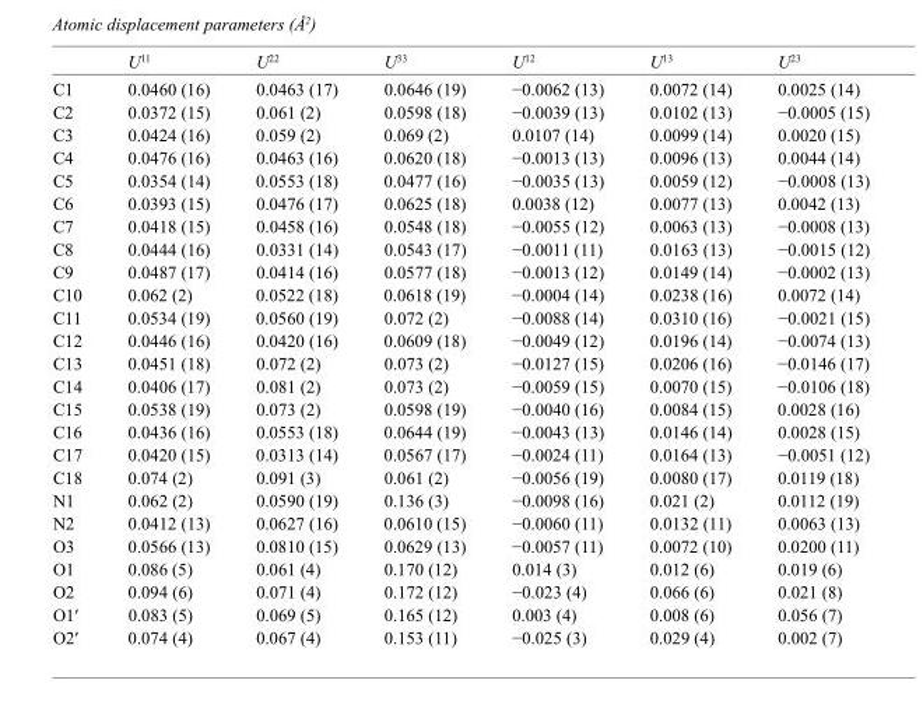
<table><thead><tr><td></td><td>U<sup>11</sup></td><td>U<sup>22</sup></td><td>U<sup>33</sup></td><td>U<sup>12</sup></td><td>U<sup>13</sup></td><td>U<sup>23</sup></td></tr></thead><tbody><tr><td>C1</td><td>0.0460 (16)</td><td>0.0463 (17)</td><td>0.0646 (19)</td><td>−0.0062 (13)</td><td>0.0072 (14)</td><td>0.0025 (14)</td></tr><tr><td>C2</td><td>0.0372 (15)</td><td>0.061 (2)</td><td>0.0598 (18)</td><td>−0.0039 (13)</td><td>0.0102 (13)</td><td>−0.0005 (15)</td></tr><tr><td>C3</td><td>0.0424 (16)</td><td>0.059 (2)</td><td>0.069 (2)</td><td>0.0107 (14)</td><td>0.0099 (14)</td><td>0.0020 (15)</td></tr><tr><td>C4</td><td>0.0476 (16)</td><td>0.0463 (16)</td><td>0.0620 (18)</td><td>−0.0013 (13)</td><td>0.0096 (13)</td><td>0.0044 (14)</td></tr><tr><td>C5</td><td>0.0354 (14)</td><td>0.0553 (18)</td><td>0.0477 (16)</td><td>−0.0035 (13)</td><td>0.0059 (12)</td><td>−0.0008 (13)</td></tr><tr><td>C6</td><td>0.0393 (15)</td><td>0.0476 (17)</td><td>0.0625 (18)</td><td>0.0038 (12)</td><td>0.0077 (13)</td><td>0.0042 (13)</td></tr><tr><td>C7</td><td>0.0418 (15)</td><td>0.0458 (16)</td><td>0.0548 (18)</td><td>−0.0055 (12)</td><td>0.0063 (13)</td><td>−0.0008 (13)</td></tr><tr><td>C8</td><td>0.0444 (16)</td><td>0.0331 (14)</td><td>0.0543 (17)</td><td>−0.0011 (11)</td><td>0.0163 (13)</td><td>−0.0015 (12)</td></tr><tr><td>C9</td><td>0.0487 (17)</td><td>0.0414 (16)</td><td>0.0577 (18)</td><td>−0.0013 (12)</td><td>0.0149 (14)</td><td>−0.0002 (13)</td></tr><tr><td>C10</td><td>0.062 (2)</td><td>0.0522 (18)</td><td>0.0618 (19)</td><td>−0.0004 (14)</td><td>0.0238 (16)</td><td>0.0072 (14)</td></tr><tr><td>C11</td><td>0.0534 (19)</td><td>0.0560 (19)</td><td>0.072 (2)</td><td>−0.0088 (14)</td><td>0.0310 (16)</td><td>−0.0021 (15)</td></tr><tr><td>C12</td><td>0.0446 (16)</td><td>0.0420 (16)</td><td>0.0609 (18)</td><td>−0.0049 (12)</td><td>0.0196 (14)</td><td>−0.0074 (13)</td></tr><tr><td>C13</td><td>0.0451 (18)</td><td>0.072 (2)</td><td>0.073 (2)</td><td>−0.0127 (15)</td><td>0.0206 (16)</td><td>−0.0146 (17)</td></tr><tr><td>C14</td><td>0.0406 (17)</td><td>0.081 (2)</td><td>0.073 (2)</td><td>−0.0059 (15)</td><td>0.0070 (15)</td><td>−0.0106 (18)</td></tr><tr><td>C15</td><td>0.0538 (19)</td><td>0.073 (2)</td><td>0.0598 (19)</td><td>−0.0040 (16)</td><td>0.0084 (15)</td><td>0.0028 (16)</td></tr><tr><td>C16</td><td>0.0436 (16)</td><td>0.0553 (18)</td><td>0.0644 (19)</td><td>−0.0043 (13)</td><td>0.0146 (14)</td><td>0.0028 (15)</td></tr><tr><td>C17</td><td>0.0420 (15)</td><td>0.0313 (14)</td><td>0.0567 (17)</td><td>−0.0024 (11)</td><td>0.0164 (13)</td><td>−0.0051 (12)</td></tr><tr><td>C18</td><td>0.074 (2)</td><td>0.091 (3)</td><td>0.061 (2)</td><td>−0.0056 (19)</td><td>0.0080 (17)</td><td>0.0119 (18)</td></tr><tr><td>N1</td><td>0.062 (2)</td><td>0.0590 (19)</td><td>0.136 (3)</td><td>−0.0098 (16)</td><td>0.021 (2)</td><td>0.0112 (19)</td></tr><tr><td>N2</td><td>0.0412 (13)</td><td>0.0627 (16)</td><td>0.0610 (15)</td><td>−0.0060 (11)</td><td>0.0132 (11)</td><td>0.0063 (13)</td></tr><tr><td>O3</td><td>0.0566 (13)</td><td>0.0810 (15)</td><td>0.0629 (13)</td><td>−0.0057 (11)</td><td>0.0072 (10)</td><td>0.0200 (11)</td></tr><tr><td>O1</td><td>0.086 (5)</td><td>0.061 (4)</td><td>0.170 (12)</td><td>0.014 (3)</td><td>0.012 (6)</td><td>0.019 (6)</td></tr><tr><td>O2</td><td>0.094 (6)</td><td>0.071 (4)</td><td>0.172 (12)</td><td>−0.023 (4)</td><td>0.066 (6)</td><td>0.021 (8)</td></tr><tr><td>O1′</td><td>0.083 (5)</td><td>0.069 (5)</td><td>0.165 (12)</td><td>0.003 (4)</td><td>0.008 (6)</td><td>0.056 (7)</td></tr><tr><td>O2′</td><td>0.074 (4)</td><td>0.067 (4)</td><td>0.153 (11)</td><td>−0.025 (3)</td><td>0.029 (4)</td><td>0.002 (7)</td></tr></tbody></table>